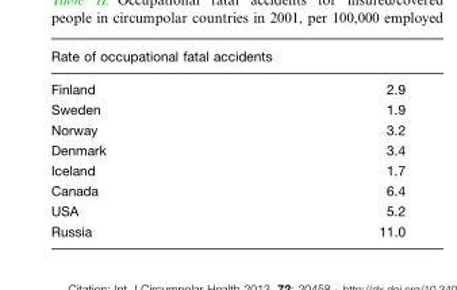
<table><thead><tr><td>Rate of occupational fatal accidents</td><td></td></tr></thead><tbody><tr><td>Finland</td><td>2.9</td></tr><tr><td>Sweden</td><td>1.9</td></tr><tr><td>Norway</td><td>3.2</td></tr><tr><td>Denmark</td><td>3.4</td></tr><tr><td>Iceland</td><td>1.7</td></tr><tr><td>Canada</td><td>6.4</td></tr><tr><td>USA</td><td>5.2</td></tr><tr><td>Russia</td><td>11.0</td></tr></tbody></table>